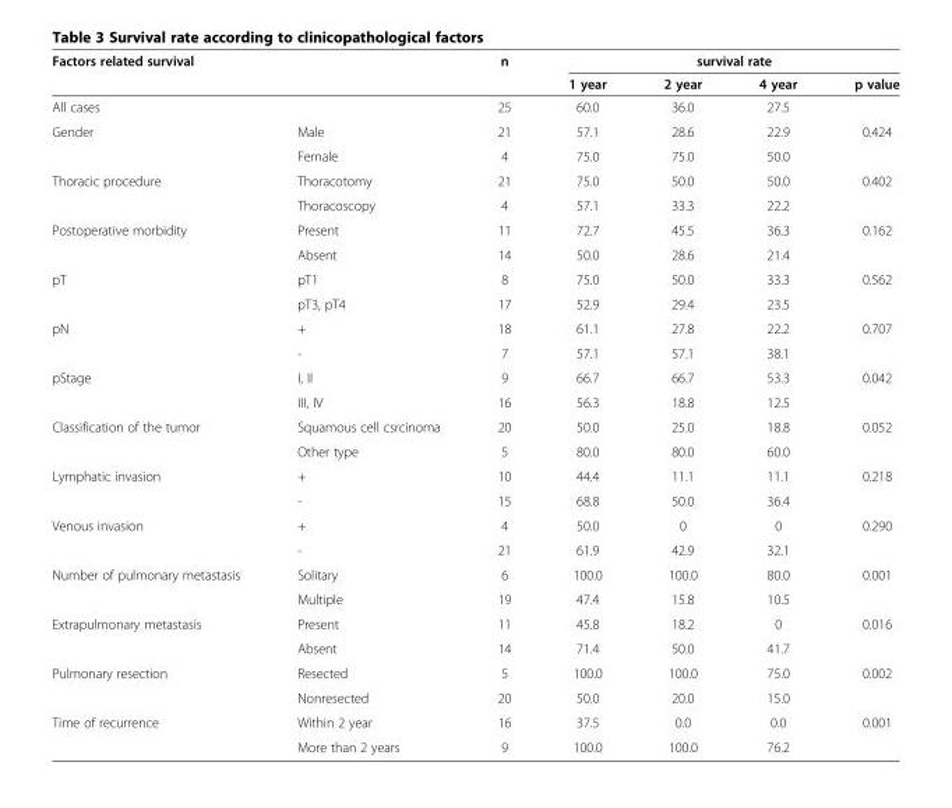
<table><thead><tr><td rowspan="2">Factors related survival</td><td rowspan="2"></td><td rowspan="2">n</td><td colspan="4">survival rate</td></tr><tr><td>1 year</td><td>2 year</td><td>4 year</td><td>p value</td></tr></thead><tbody><tr><td>All cases</td><td></td><td>25</td><td>60.0</td><td>36.0</td><td>27.5</td><td></td></tr><tr><td rowspan="2">Gender</td><td>Male</td><td>21</td><td>57.1</td><td>28.6</td><td>22.9</td><td>0.424</td></tr><tr><td>Female</td><td>4</td><td>75.0</td><td>75.0</td><td>50.0</td><td></td></tr><tr><td rowspan="2">Thoracic procedure</td><td>Thoracotomy</td><td>21</td><td>75.0</td><td>50.0</td><td>50.0</td><td>0.402</td></tr><tr><td>Thoracoscopy</td><td>4</td><td>57.1</td><td>33.3</td><td>22.2</td><td></td></tr><tr><td rowspan="2">Postoperative morbidity</td><td>Present</td><td>11</td><td>72.7</td><td>45.5</td><td>36.3</td><td>0.162</td></tr><tr><td>Absent</td><td>14</td><td>50.0</td><td>28.6</td><td>21.4</td><td></td></tr><tr><td rowspan="2">pT</td><td>pT1</td><td>8</td><td>75.0</td><td>50.0</td><td>33.3</td><td>0.562</td></tr><tr><td>pT3, pT4</td><td>17</td><td>52.9</td><td>29.4</td><td>23.5</td><td></td></tr><tr><td rowspan="2">pN</td><td>+</td><td>18</td><td>61.1</td><td>27.8</td><td>22.2</td><td>0.707</td></tr><tr><td>-</td><td>7</td><td>57.1</td><td>57.1</td><td>38.1</td><td></td></tr><tr><td rowspan="2">pStage</td><td>I, II</td><td>9</td><td>66.7</td><td>66.7</td><td>53.3</td><td>0.042</td></tr><tr><td>III, IV</td><td>16</td><td>56.3</td><td>18.8</td><td>12.5</td><td></td></tr><tr><td rowspan="2">Classification of the tumor</td><td>Squamous cell csrcinoma</td><td>20</td><td>50.0</td><td>25.0</td><td>18.8</td><td>0.052</td></tr><tr><td>Other type</td><td>5</td><td>80.0</td><td>80.0</td><td>60.0</td><td></td></tr><tr><td rowspan="2">Lymphatic invasion</td><td>+</td><td>10</td><td>44.4</td><td>11.1</td><td>11.1</td><td>0.218</td></tr><tr><td>-</td><td>15</td><td>68.8</td><td>50.0</td><td>36.4</td><td></td></tr><tr><td rowspan="2">Venous invasion</td><td>+</td><td>4</td><td>50.0</td><td>0</td><td>0</td><td>0.290</td></tr><tr><td>-</td><td>21</td><td>61.9</td><td>42.9</td><td>32.1</td><td></td></tr><tr><td rowspan="2">Number of pulmonary metastasis</td><td>Solitary</td><td>6</td><td>100.0</td><td>100.0</td><td>80.0</td><td>0.001</td></tr><tr><td>Multiple</td><td>19</td><td>47.4</td><td>15.8</td><td>10.5</td><td></td></tr><tr><td rowspan="2">Extrapulmonary metastasis</td><td>Present</td><td>11</td><td>45.8</td><td>18.2</td><td>0</td><td>0.016</td></tr><tr><td>Absent</td><td>14</td><td>71.4</td><td>50.0</td><td>41.7</td><td></td></tr><tr><td rowspan="2">Pulmonary resection</td><td>Resected</td><td>5</td><td>100.0</td><td>100.0</td><td>75.0</td><td>0.002</td></tr><tr><td>Nonresected</td><td>20</td><td>50.0</td><td>20.0</td><td>15.0</td><td></td></tr><tr><td rowspan="2">Time of recurrence</td><td>Within 2 year</td><td>16</td><td>37.5</td><td>0.0</td><td>0.0</td><td>0.001</td></tr><tr><td>More than 2 years</td><td>9</td><td>100.0</td><td>100.0</td><td>76.2</td><td></td></tr></tbody></table>